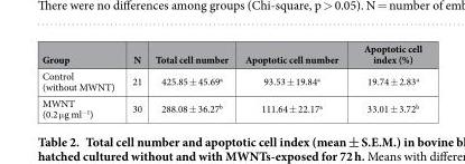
<table><thead><tr><td>Group</td><td>N</td><td>Total cell number</td><td>Apoptotic cell number</td><td>Apoptotic cell index (%)</td></tr></thead><tbody><tr><td>Control (without MWNT)</td><td>21</td><td>425.85 ± 45.69<sup>a</sup></td><td>93.53 ± 19.84<sup>a</sup></td><td>19.74 ± 2.83<sup>a</sup></td></tr><tr><td>MWNT (0.2 μ g ml<sup>−1</sup>)</td><td>30</td><td>288.08 ± 36.27<sup>b</sup></td><td>111.64 ± 22.17<sup>a</sup></td><td>33.01 ± 3.72<sup>b</sup></td></tr></tbody></table>